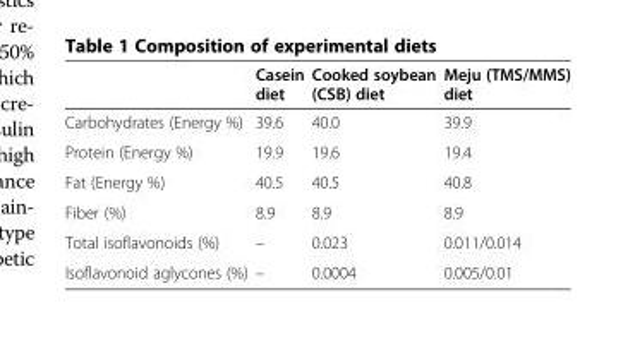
<table><thead><tr><td></td><td>Casein diet</td><td>Cooked soybean (CSB) diet</td><td>Meju (TMS/MMS) diet</td></tr></thead><tbody><tr><td>Carbohydrates (Energy %)</td><td>39.6</td><td>40.0</td><td>39.9</td></tr><tr><td>Protein (Energy %)</td><td>19.9</td><td>19.6</td><td>19.4</td></tr><tr><td>Fat (Energy %)</td><td>40.5</td><td>40.5</td><td>40.8</td></tr><tr><td>Fiber (%)</td><td>8.9</td><td>8.9</td><td>8.9</td></tr><tr><td>Total isoflavonoids (%)</td><td>–</td><td>0.023</td><td>0.011/0.014</td></tr><tr><td>Isoflavonoid aglycones (%)</td><td>–</td><td>0.0004</td><td>0.005/0.01</td></tr></tbody></table>